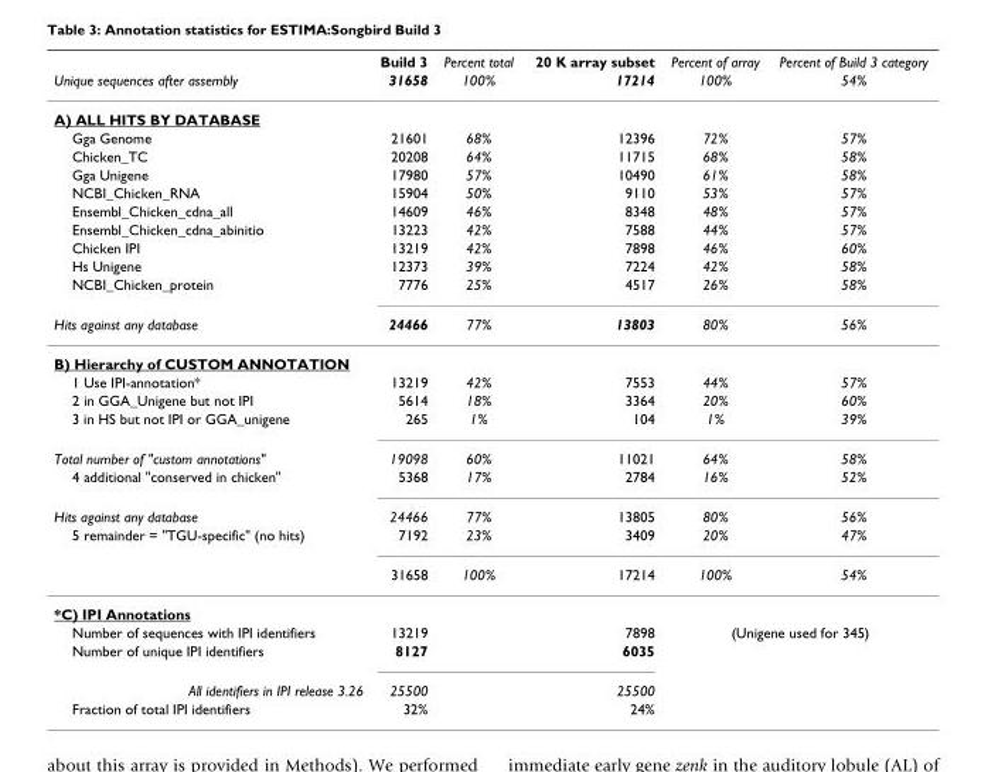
<table><thead><tr><td rowspan="2">Unique sequences after assembly</td><td rowspan="2">Build 3 31658</td><td rowspan="2">Percent total 100%</td><td rowspan="2">20 K array subset 17214</td><td rowspan="2">Percent of array 100%</td><td rowspan="2">Percent of Build 3 category 54%</td></tr><tr></tr></thead><tbody><tr><td colspan="6">A) ALL HITS BY DATABASE</td></tr><tr><td>Gga Genome</td><td>21601</td><td>68%</td><td>12396</td><td>72%</td><td>57%</td></tr><tr><td>Chicken_TC</td><td>20208</td><td>64%</td><td>11715</td><td>68%</td><td>58%</td></tr><tr><td>Gga Unigene</td><td>17980</td><td>57%</td><td>10490</td><td>61%</td><td>58%</td></tr><tr><td>NCBI_Chicken_RNA</td><td>15904</td><td>50%</td><td>9110</td><td>53%</td><td>57%</td></tr><tr><td>Ensembl_Chicken_cdna_all</td><td>14609</td><td>46%</td><td>8348</td><td>48%</td><td>57%</td></tr><tr><td>Ensembl_Chicken_cdna_abinitio</td><td>13223</td><td>42%</td><td>7588</td><td>44%</td><td>57%</td></tr><tr><td>Chicken IPI</td><td>13219</td><td>42%</td><td>7898</td><td>46%</td><td>60%</td></tr><tr><td>Hs Unigene</td><td>12373</td><td>39%</td><td>7224</td><td>42%</td><td>58%</td></tr><tr><td>NCBI_Chicken_protein</td><td>7776</td><td>25%</td><td>4517</td><td>26%</td><td>58%</td></tr><tr><td>Hits against any database</td><td>24466</td><td>77%</td><td>13803</td><td>80%</td><td>56%</td></tr><tr><td colspan="6">B) Hierarchy of CUSTOM ANNOTATION</td></tr><tr><td>1 Use IPI-annotation*</td><td>13219</td><td>42%</td><td>7553</td><td>44%</td><td>57%</td></tr><tr><td>2 in GGA_Unigene but not IPI</td><td>5614</td><td>18%</td><td>3364</td><td>20%</td><td>60%</td></tr><tr><td>3 in HS but not IPI or GGA_unigene</td><td>265</td><td>1%</td><td>104</td><td>1%</td><td>39%</td></tr><tr><td>Total number of &quot;custom annotations&quot;</td><td>19098</td><td>60%</td><td>11021</td><td>64%</td><td>58%</td></tr><tr><td>4 additional &quot;conserved in chicken&quot;</td><td>5368</td><td>17%</td><td>2784</td><td>16%</td><td>52%</td></tr><tr><td>Hits against any database</td><td>24466</td><td>77%</td><td>13805</td><td>80%</td><td>56%</td></tr><tr><td rowspan="2">5 remainder = &quot;TGU-specific&quot; (no hits)</td><td>7192</td><td>23%</td><td>3409</td><td>20%</td><td>47%</td></tr><tr><td>31658</td><td>100%</td><td>17214</td><td>100%</td><td>54%</td></tr><tr><td colspan="6">*C) IPI Annotations</td></tr><tr><td>Number of sequences with IPI identifiers</td><td>13219</td><td></td><td>7898</td><td colspan="2">(Unigene used for 345)</td></tr><tr><td>Number of unique IPI identifiers</td><td>8127</td><td></td><td>6035</td><td></td><td></td></tr><tr><td>All identifiers in IPI release 3.26</td><td>25500</td><td></td><td>25500</td><td></td><td></td></tr><tr><td>Fraction of total IPI identifiers</td><td>32%</td><td></td><td>24%</td><td></td><td></td></tr></tbody></table>